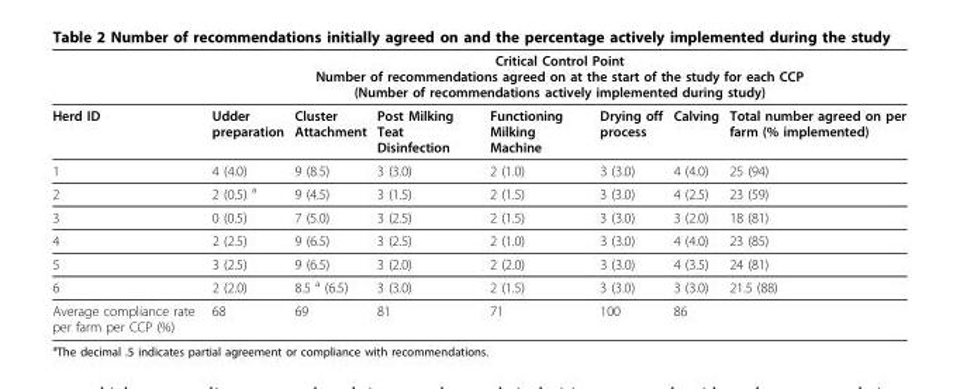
<table><thead><tr><td rowspan="2">Herd ID</td><td colspan="7">Critical Control Point Number of recommendations agreed on at the start of the study for each CCP (Number of recommendations actively implemented during study)</td></tr><tr><td>Udder preparation</td><td>Cluster Attachment</td><td>Post Milking Teat Disinfection</td><td>Functioning Milking Machine</td><td>Drying off process</td><td>Calving</td><td>Total number agreed on per farm (% implemented)</td></tr></thead><tbody><tr><td>1</td><td>4 (4.0)</td><td>9 (8.5)</td><td>3 (3.0)</td><td>2 (1.0)</td><td>3 (3.0)</td><td>4 (4.0)</td><td>25 (94)</td></tr><tr><td>2</td><td>2 (0.5) <sup>a</sup></td><td>9 (4.5)</td><td>3 (1.5)</td><td>2 (1.5)</td><td>3 (3.0)</td><td>4 (2.5)</td><td>23 (59)</td></tr><tr><td>3</td><td>0 (0.5)</td><td>7 (5.0)</td><td>3 (2.5)</td><td>2 (1.5)</td><td>3 (3.0)</td><td>3 (2.0)</td><td>18 (81)</td></tr><tr><td>4</td><td>2 (2.5)</td><td>9 (6.5)</td><td>3 (2.5)</td><td>2 (1.0)</td><td>3 (3.0)</td><td>4 (4.0)</td><td>23 (85)</td></tr><tr><td>5</td><td>3 (2.5)</td><td>9 (6.5)</td><td>3 (2.0)</td><td>2 (2.0)</td><td>3 (3.0)</td><td>4 (3.5)</td><td>24 (81)</td></tr><tr><td>6</td><td>2 (2.0)</td><td>8.5 <sup>a</sup> (6.5)</td><td>3 (3.0)</td><td>2 (1.5)</td><td>3 (3.0)</td><td>3 (3.0)</td><td>21.5 (88)</td></tr><tr><td>Average compliance rate per farm per CCP (%)</td><td>68</td><td>69</td><td>81</td><td>71</td><td>100</td><td>86</td><td></td></tr></tbody></table>